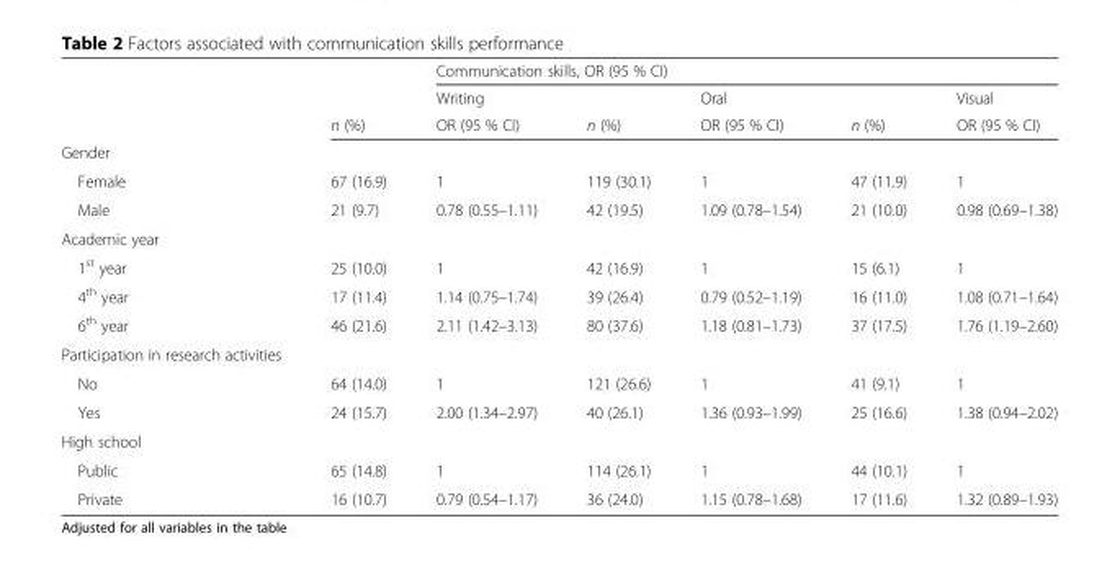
<table><thead><tr><td rowspan="3"></td><td rowspan="3">n (%)</td><td colspan="5">Communication skills, OR (95 % CI)</td></tr><tr><td rowspan="2">Writing OR (95 % CI)</td><td rowspan="2">n (%)</td><td rowspan="2">Oral OR (95 % CI)</td><td rowspan="2">n (%)</td><td rowspan="2">Visual OR (95 % CI)</td></tr><tr></tr></thead><tbody><tr><td colspan="7">Gender</td></tr><tr><td>Female</td><td>67 (16.9)</td><td>1</td><td>119 (30.1)</td><td>1</td><td>47 (11.9)</td><td>1</td></tr><tr><td>Male</td><td>21 (9.7)</td><td>0.78 (0.55–1.11)</td><td>42 (19.5)</td><td>1.09 (0.78–1.54)</td><td>21 (10.0)</td><td>0.98 (0.69–1.38)</td></tr><tr><td colspan="7">Academic year</td></tr><tr><td>1<sup>st</sup> year</td><td>25 (10.0)</td><td>1</td><td>42 (16.9)</td><td>1</td><td>15 (6.1)</td><td>1</td></tr><tr><td>4<sup>th</sup> year</td><td>17 (11.4)</td><td>1.14 (0.75–1.74)</td><td>39 (26.4)</td><td>0.79 (0.52–1.19)</td><td>16 (11.0)</td><td>1.08 (0.71–1.64)</td></tr><tr><td>6<sup>th</sup> year</td><td>46 (21.6)</td><td>2.11 (1.42–3.13)</td><td>80 (37.6)</td><td>1.18 (0.81–1.73)</td><td>37 (17.5)</td><td>1.76 (1.19–2.60)</td></tr><tr><td colspan="7">Participation in research activities</td></tr><tr><td>No</td><td>64 (14.0)</td><td>1</td><td>121 (26.6)</td><td>1</td><td>41 (9.1)</td><td>1</td></tr><tr><td>Yes</td><td>24 (15.7)</td><td>2.00 (1.34–2.97)</td><td>40 (26.1)</td><td>1.36 (0.93–1.99)</td><td>25 (16.6)</td><td>1.38 (0.94–2.02)</td></tr><tr><td colspan="7">High school</td></tr><tr><td>Public</td><td>65 (14.8)</td><td>1</td><td>114 (26.1)</td><td>1</td><td>44 (10.1)</td><td>1</td></tr><tr><td>Private</td><td>16 (10.7)</td><td>0.79 (0.54–1.17)</td><td>36 (24.0)</td><td>1.15 (0.78–1.68)</td><td>17 (11.6)</td><td>1.32 (0.89–1.93)</td></tr></tbody></table>